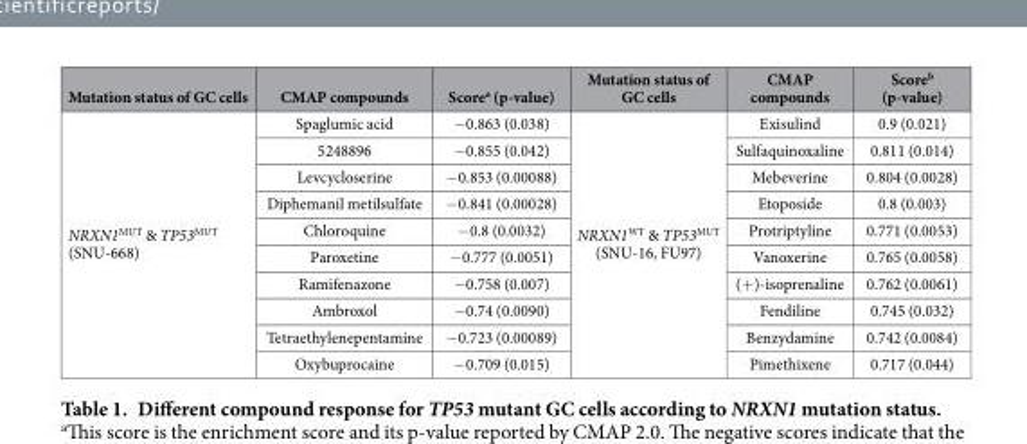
<table><thead><tr><td>Mutation status of GC cells</td><td>CMAP compounds</td><td>Score<sup>a</sup> (p-value)</td><td>Mutation status of GC cells</td><td>CMAP compounds</td><td>Score<sup>b</sup> (p-value)</td></tr></thead><tbody><tr><td rowspan="10">NRXN1<sup>MUT</sup> &amp; TP53<sup>MUT</sup> (SNU-668)</td><td>Spaglumic acid</td><td>− 0.863 (0.038)</td><td rowspan="10">NRXN1<sup>WT</sup> &amp; TP53<sup>MUT</sup> (SNU-16, FU97)</td><td>Exisulind</td><td>0.9 (0.021)</td></tr><tr><td>5248896</td><td>− 0.855 (0.042)</td><td>Sulfaquinoxaline</td><td>0.811 (0.014)</td></tr><tr><td>Levcycloserine</td><td>− 0.853 (0.00088)</td><td>Mebeverine</td><td>0.804 (0.0028)</td></tr><tr><td>Diphemanil metilsulfate</td><td>− 0.841 (0.00028)</td><td>Etoposide</td><td>0.8 (0.003)</td></tr><tr><td>Chloroquine</td><td>− 0.8 (0.0032)</td><td>Protriptyline</td><td>0.771 (0.0053)</td></tr><tr><td>Paroxetine</td><td>− 0.777 (0.0051)</td><td>Vanoxerine</td><td>0.765 (0.0058)</td></tr><tr><td>Ramifenazone</td><td>− 0.758 (0.007)</td><td>(+ )-isoprenaline</td><td>0.762 (0.0061)</td></tr><tr><td>Ambroxol</td><td>− 0.74 (0.0090)</td><td>Fendiline</td><td>0.745 (0.032)</td></tr><tr><td>Tetraethylenepentamine</td><td>− 0.723 (0.00089)</td><td>Benzydamine</td><td>0.742 (0.0084)</td></tr><tr><td>Oxybuprocaine</td><td>− 0.709 (0.015)</td><td>Pimethixene</td><td>0.717 (0.044)</td></tr></tbody></table>